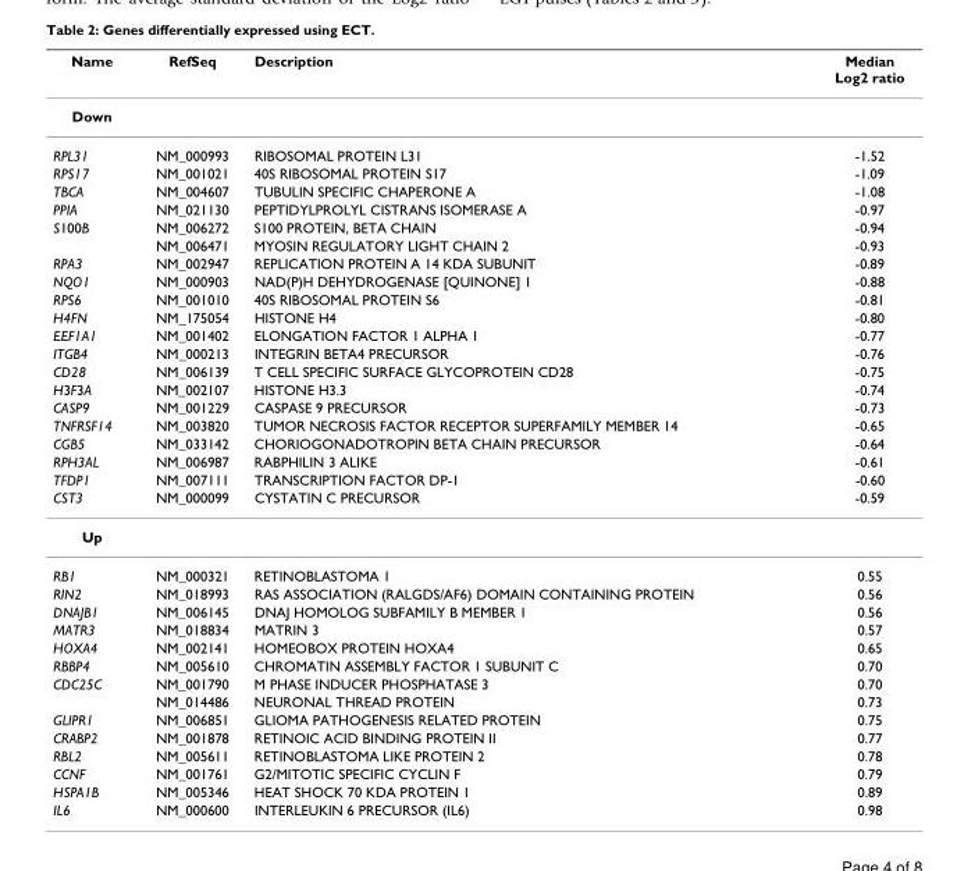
<table><thead><tr><td>Name</td><td>RefSeq</td><td>Description</td><td>Median Log2 ratio</td></tr></thead><tbody><tr><td colspan="4">Down</td></tr><tr><td>RPL31</td><td>NM_000993</td><td>RIBOSOMAL PROTEIN L31</td><td>-1.52</td></tr><tr><td>RPS17</td><td>NM_001021</td><td>40S RIBOSOMAL PROTEIN S17</td><td>-1.09</td></tr><tr><td>TBCA</td><td>NM_004607</td><td>TUBULIN SPECIFIC CHAPERONE A</td><td>-1.08</td></tr><tr><td>PPIA</td><td>NM_021130</td><td>PEPTIDYLPROLYL CISTRANS ISOMERASE A</td><td>-0.97</td></tr><tr><td rowspan="2">S100B</td><td>NM_006272</td><td>S100 PROTEIN, BETA CHAIN</td><td>-0.94</td></tr><tr><td>NM_006471</td><td>MYOSIN REGULATORY LIGHT CHAIN 2</td><td>-0.93</td></tr><tr><td>RPA3</td><td>NM_002947</td><td>REPLICATION PROTEIN A 14 KDA SUBUNIT</td><td>-0.89</td></tr><tr><td>NQO1</td><td>NM_000903</td><td>NAD(P)H DEHYDROGENASE [QUINONE] 1</td><td>-0.88</td></tr><tr><td>RPS6</td><td>NM_001010</td><td>40S RIBOSOMAL PROTEIN S6</td><td>-0.81</td></tr><tr><td>H4FN</td><td>NM_175054</td><td>HISTONE H4</td><td>-0.80</td></tr><tr><td>EEF1A1</td><td>NM_001402</td><td>ELONGATION FACTOR 1 ALPHA 1</td><td>-0.77</td></tr><tr><td>ITGB4</td><td>NM_000213</td><td>INTEGRIN BETA4 PRECURSOR</td><td>-0.76</td></tr><tr><td>CD28</td><td>NM_006139</td><td>T CELL SPECIFIC SURFACE GLYCOPROTEIN CD28</td><td>-0.75</td></tr><tr><td>H3F3A</td><td>NM_002107</td><td>HISTONE H3.3</td><td>-0.74</td></tr><tr><td>CASP9</td><td>NM_001229</td><td>CASPASE 9 PRECURSOR</td><td>-0.73</td></tr><tr><td>TNFRSF14</td><td>NM_003820</td><td>TUMOR NECROSIS FACTOR RECEPTOR SUPERFAMILY MEMBER 14</td><td>-0.65</td></tr><tr><td>CGB5</td><td>NM_033142</td><td>CHORIOGONADOTROPIN BETA CHAIN PRECURSOR</td><td>-0.64</td></tr><tr><td>RPH3AL</td><td>NM_006987</td><td>RABPHILIN 3 ALIKE</td><td>-0.61</td></tr><tr><td>TFDP1</td><td>NM_007111</td><td>TRANSCRIPTION FACTOR DP-1</td><td>-0.60</td></tr><tr><td>CST3</td><td>NM_000099</td><td>CYSTATIN C PRECURSOR</td><td>-0.59</td></tr><tr><td colspan="4">Up</td></tr><tr><td>RB1</td><td>NM_000321</td><td>RETINOBLASTOMA 1</td><td>0.55</td></tr><tr><td>RIN2</td><td>NM_018993</td><td>RAS ASSOCIATION (RALGDS/AF6) DOMAIN CONTAINING PROTEIN</td><td>0.56</td></tr><tr><td>DNAJB1</td><td>NM_006145</td><td>DNAJ HOMOLOG SUBFAMILY B MEMBER 1</td><td>0.56</td></tr><tr><td>MATR3</td><td>NM_018834</td><td>MATRIN 3</td><td>0.57</td></tr><tr><td>HOXA4</td><td>NM_002141</td><td>HOMEOBOX PROTEIN HOXA4</td><td>0.65</td></tr><tr><td>RBBP4</td><td>NM_005610</td><td>CHROMATIN ASSEMBLY FACTOR 1 SUBUNIT C</td><td>0.70</td></tr><tr><td rowspan="2">CDC25C</td><td>NM_001790</td><td>M PHASE INDUCER PHOSPHATASE 3</td><td>0.70</td></tr><tr><td>NM_014486</td><td>NEURONAL THREAD PROTEIN</td><td>0.73</td></tr><tr><td>GLIPR1</td><td>NM_006851</td><td>GLIOMA PATHOGENESIS RELATED PROTEIN</td><td>0.75</td></tr><tr><td>CRABP2</td><td>NM_001878</td><td>RETINOIC ACID BINDING PROTEIN II</td><td>0.77</td></tr><tr><td>RBL2</td><td>NM_005611</td><td>RETINOBLASTOMA LIKE PROTEIN 2</td><td>0.78</td></tr><tr><td>CCNF</td><td>NM_001761</td><td>G2/MITOTIC SPECIFIC CYCLIN F</td><td>0.79</td></tr><tr><td>HSPA1B</td><td>NM_005346</td><td>HEAT SHOCK 70 KDA PROTEIN 1</td><td>0.89</td></tr><tr><td>IL6</td><td>NM_000600</td><td>INTERLEUKIN 6 PRECURSOR (IL6)</td><td>0.98</td></tr></tbody></table>